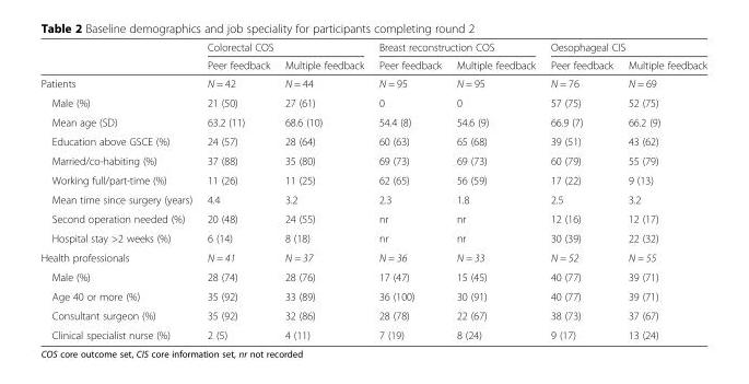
<table><thead><tr><td rowspan="2"></td><td colspan="2">Colorectal COS</td><td colspan="2">Breast reconstruction COS</td><td colspan="2">Oesophageal CIS</td></tr><tr><td>Peer feedback</td><td>Multiple feedback</td><td>Peer feedback</td><td>Multiple feedback</td><td>Peer feedback</td><td>Multiple feedback</td></tr></thead><tbody><tr><td>Patients</td><td>N = 42</td><td>N = 44</td><td>N = 95</td><td>N = 95</td><td>N = 76</td><td>N = 69</td></tr><tr><td>Male (%)</td><td>21 (50)</td><td>27 (61)</td><td>0</td><td>0</td><td>57 (75)</td><td>52 (75)</td></tr><tr><td>Mean age (SD)</td><td>63.2 (11)</td><td>68.6 (10)</td><td>54.4 (8)</td><td>54.6 (9)</td><td>66.9 (7)</td><td>66.2 (9)</td></tr><tr><td>Education above GSCE (%)</td><td>24 (57)</td><td>28 (64)</td><td>60 (63)</td><td>65 (68)</td><td>39 (51)</td><td>43 (62)</td></tr><tr><td>Married/co-habiting (%)</td><td>37 (88)</td><td>35 (80)</td><td>69 (73)</td><td>69 (73)</td><td>60 (79)</td><td>55 (79)</td></tr><tr><td>Working full/part-time (%)</td><td>11 (26)</td><td>11 (25)</td><td>62 (65)</td><td>56 (59)</td><td>17 (22)</td><td>9 (13)</td></tr><tr><td>Mean time since surgery (years)</td><td>4.4</td><td>3.2</td><td>2.3</td><td>1.8</td><td>2.5</td><td>3.2</td></tr><tr><td>Second operation needed (%)</td><td>20 (48)</td><td>24 (55)</td><td>nr</td><td>nr</td><td>12 (16)</td><td>12 (17)</td></tr><tr><td>Hospital stay &gt;2 weeks (%)</td><td>6 (14)</td><td>8 (18)</td><td>nr</td><td>nr</td><td>30 (39)</td><td>22 (32)</td></tr><tr><td>Health professionals</td><td>N = 41</td><td>N = 37</td><td>N = 36</td><td>N = 33</td><td>N = 52</td><td>N = 55</td></tr><tr><td>Male (%)</td><td>28 (74)</td><td>28 (76)</td><td>17 (47)</td><td>15 (45)</td><td>40 (77)</td><td>39 (71)</td></tr><tr><td>Age 40 or more (%)</td><td>35 (92)</td><td>33 (89)</td><td>36 (100)</td><td>30 (91)</td><td>40 (77)</td><td>39 (71)</td></tr><tr><td>Consultant surgeon (%)</td><td>35 (92)</td><td>32 (86)</td><td>28 (78)</td><td>22 (67)</td><td>38 (73)</td><td>37 (67)</td></tr><tr><td>Clinical specialist nurse (%)</td><td>2 (5)</td><td>4 (11)</td><td>7 (19)</td><td>8 (24)</td><td>9 (17)</td><td>13 (24)</td></tr></tbody></table>